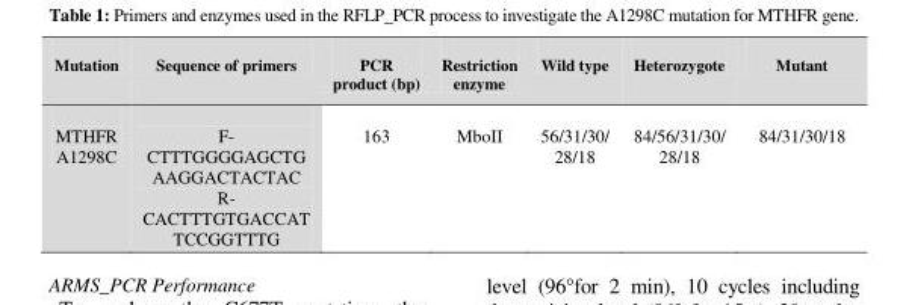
<table><thead><tr><td>Mutation</td><td>Sequence of primers</td><td>PCR product (bp)</td><td>Restriction enzyme</td><td>Wild type</td><td>Heterozygote</td><td>Mutant</td></tr></thead><tbody><tr><td>MTHFR A1298C</td><td>F- CTTTGGGGAGCTG AAGGACTACTAC R- CACTTTGTGACCAT TCCGGTTTG</td><td>163</td><td>MboII</td><td>56/31/30/ 28/18</td><td>84/56/31/30/ 28/18</td><td>84/31/30/18</td></tr></tbody></table>